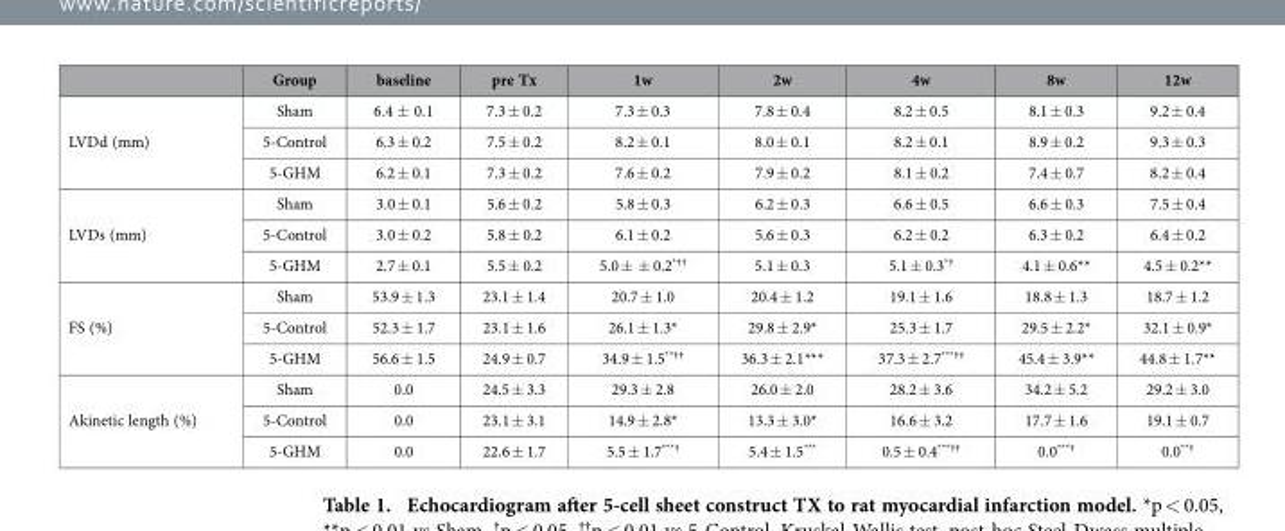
<table><thead><tr><td></td><td>Group</td><td>baseline</td><td>pre Tx</td><td>1w</td><td>2w</td><td>4w</td><td>8w</td><td>12w</td></tr></thead><tbody><tr><td rowspan="3">LVDd (mm)</td><td>Sham</td><td>6.4 ± 0.1</td><td>7.3 ± 0.2</td><td>7.3 ± 0.3</td><td>7.8 ± 0.4</td><td>8.2 ± 0.5</td><td>8.1 ± 0.3</td><td>9.2 ± 0.4</td></tr><tr><td>5-Control</td><td>6.3 ± 0.2</td><td>7.5 ± 0.2</td><td>8.2 ± 0.1</td><td>8.0 ± 0.1</td><td>8.2 ± 0.1</td><td>8.9 ± 0.2</td><td>9.3 ± 0.3</td></tr><tr><td>5-GHM</td><td>6.2 ± 0.1</td><td>7.3 ± 0.2</td><td>7.6 ± 0.2</td><td>7.9 ± 0.2</td><td>8.1 ± 0.2</td><td>7.4 ± 0.7</td><td>8.2 ± 0.4</td></tr><tr><td rowspan="3">LVDs (mm)</td><td>Sham</td><td>3.0 ± 0.1</td><td>5.6 ± 0.2</td><td>5.8 ± 0.3</td><td>6.2 ± 0.3</td><td>6.6 ± 0.5</td><td>6.6 ± 0.3</td><td>7.5 ± 0.4</td></tr><tr><td>5-Control</td><td>3.0 ± 0.2</td><td>5.8 ± 0.2</td><td>6.1 ± 0.2</td><td>5.6 ± 0.3</td><td>6.2 ± 0.2</td><td>6.3 ± 0.2</td><td>6.4 ± 0.2</td></tr><tr><td>5-GHM</td><td>2.7 ± 0.1</td><td>5.5 ± 0.2</td><td>5.0 ± ± 0.2<sup>*††</sup></td><td>5.1 ± 0.3</td><td>5.1 ± 0.3<sup>*†</sup></td><td>4.1 ± 0.6**</td><td>4.5 ± 0.2**</td></tr><tr><td rowspan="3">FS (%)</td><td>Sham</td><td>53.9 ± 1.3</td><td>23.1 ± 1.4</td><td>20.7 ± 1.0</td><td>20.4 ± 1.2</td><td>19.1 ± 1.6</td><td>18.8 ± 1.3</td><td>18.7 ± 1.2</td></tr><tr><td>5-Control</td><td>52.3 ± 1.7</td><td>23.1 ± 1.6</td><td>26.1 ± 1.3*</td><td>29.8 ± 2.9*</td><td>25.3 ± 1.7</td><td>29.5 ± 2.2*</td><td>32.1 ± 0.9*</td></tr><tr><td>5-GHM</td><td>56.6 ± 1.5</td><td>24.9 ± 0.7</td><td>34.9 ± 1.5<sup>**††</sup></td><td>36.3 ± 2.1***</td><td>37.3 ± 2.7<sup>***††</sup></td><td>45.4 ± 3.9**</td><td>44.8 ± 1.7**</td></tr><tr><td rowspan="3">Akinetic length (%)</td><td>Sham</td><td>0.0</td><td>24.5 ± 3.3</td><td>29.3 ± 2.8</td><td>26.0 ± 2.0</td><td>28.2 ± 3.6</td><td>34.2 ± 5.2</td><td>29.2 ± 3.0</td></tr><tr><td>5-Control</td><td>0.0</td><td>23.1 ± 3.1</td><td>14.9 ± 2.8*</td><td>13.3 ± 3.0*</td><td>16.6 ± 3.2</td><td>17.7 ± 1.6</td><td>19.1 ± 0.7</td></tr><tr><td>5-GHM</td><td>0.0</td><td>22.6 ± 1.7</td><td>5.5 ± 1.7<sup>***†</sup></td><td>5.4 ± 1.5***</td><td>0.5 ± 0.4<sup>***††</sup></td><td>0.0<sup>***†</sup></td><td>0.0<sup>**†</sup></td></tr></tbody></table>